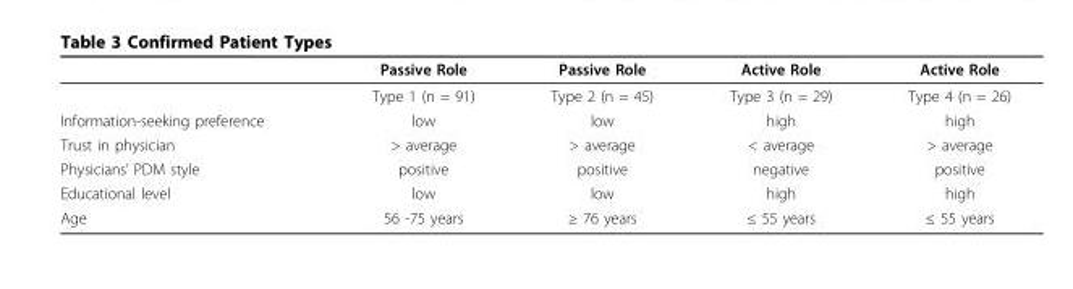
<table><thead><tr><td></td><td>Passive Role</td><td>Passive Role</td><td>Active Role</td><td>Active Role</td></tr></thead><tbody><tr><td></td><td>Type 1 (n = 91)</td><td>Type 2 (n = 45)</td><td>Type 3 (n = 29)</td><td>Type 4 (n = 26)</td></tr><tr><td>Information-seeking preference</td><td>low</td><td>low</td><td>high</td><td>high</td></tr><tr><td>Trust in physician</td><td>&gt; average</td><td>&gt; average</td><td>&lt; average</td><td>&gt; average</td></tr><tr><td>Physicians’ PDM style</td><td>positive</td><td>positive</td><td>negative</td><td>positive</td></tr><tr><td>Educational level</td><td>low</td><td>low</td><td>high</td><td>high</td></tr><tr><td>Age</td><td>56 -75 years</td><td>≥ 76 years</td><td>≤ 55 years</td><td>≤ 55 years</td></tr></tbody></table>